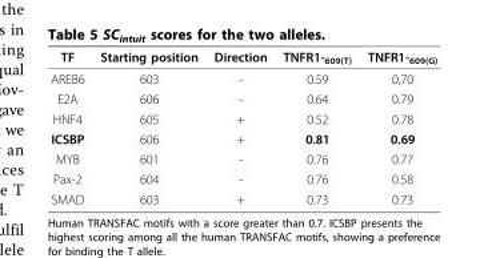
<table><thead><tr><td>TF</td><td>Starting position</td><td>Direction</td><td>TNFR1-<sub>609(T)</sub></td><td>TNFR1-<sub>609(G)</sub></td></tr></thead><tbody><tr><td>AREB6</td><td>603</td><td>-</td><td>0.59</td><td>0,70</td></tr><tr><td>E2A</td><td>606</td><td>-</td><td>0.64</td><td>0.79</td></tr><tr><td>HNF4</td><td>605</td><td>+</td><td>0.52</td><td>0.78</td></tr><tr><td>ICSBP</td><td>606</td><td>+</td><td>0.81</td><td>0.69</td></tr><tr><td>MYB</td><td>601</td><td>-</td><td>0.76</td><td>0.77</td></tr><tr><td>Pax-2</td><td>604</td><td>-</td><td>0.76</td><td>0.58</td></tr><tr><td>SMAD</td><td>603</td><td>+</td><td>0.73</td><td>0.73</td></tr></tbody></table>